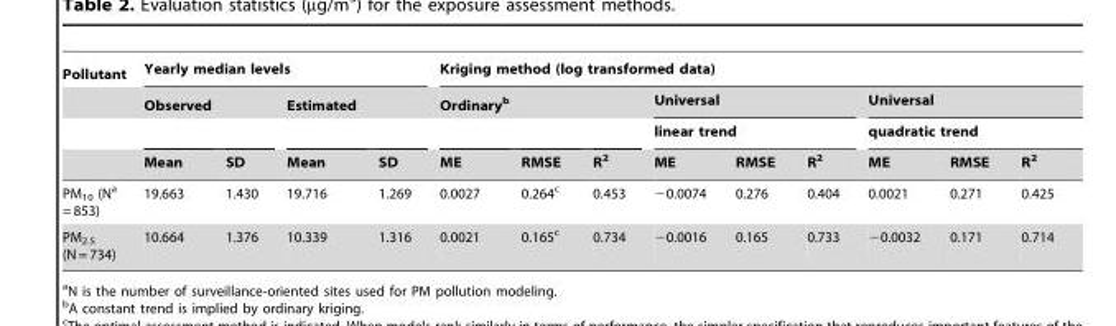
<table><thead><tr><td rowspan="4">Pollutant</td><td colspan="4">Yearly median levels</td><td colspan="9">Kriging method (log transformed data)</td></tr><tr><td colspan="2">Observed</td><td colspan="2">Estimated</td><td colspan="3">Ordinary<sup>b</sup></td><td rowspan="2" colspan="3">Universal linear trend</td><td rowspan="2" colspan="3">Universal quadratic trend</td></tr><tr><td rowspan="2">Mean</td><td rowspan="2">SD</td><td rowspan="2">Mean</td><td rowspan="2">SD</td><td rowspan="2">ME</td><td rowspan="2">RMSE</td><td rowspan="2">R<sup>2</sup></td></tr><tr><td>ME</td><td>RMSE</td><td>R<sup>2</sup></td><td>ME</td><td>RMSE</td><td>R<sup>2</sup></td></tr></thead><tbody><tr><td>PM<sub>10</sub> (N<sup>a</sup> = 853)</td><td>19.663</td><td>1.430</td><td>19.716</td><td>1.269</td><td>0.0027</td><td>0.264<sup>c</sup></td><td>0.453</td><td>−0.0074</td><td>0.276</td><td>0.404</td><td>0.0021</td><td>0.271</td><td>0.425</td></tr><tr><td>PM<sub>2.5</sub> (N = 734)</td><td>10.664</td><td>1.376</td><td>10.339</td><td>1.316</td><td>0.0021</td><td>0.165<sup>c</sup></td><td>0.734</td><td>−0.0016</td><td>0.165</td><td>0.733</td><td>−0.0032</td><td>0.171</td><td>0.714</td></tr></tbody></table>